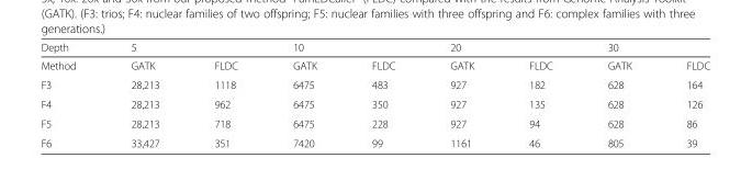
<table><thead><tr><td rowspan="2">Depth Method</td><td colspan="2">5</td><td colspan="2">10</td><td colspan="2">20</td><td colspan="2">30</td></tr><tr><td>GATK</td><td>FLDC</td><td>GATK</td><td>FLDC</td><td>GATK</td><td>FLDC</td><td>GATK</td><td>FLDC</td></tr></thead><tbody><tr><td>F3</td><td>28,213</td><td>1118</td><td>6475</td><td>483</td><td>927</td><td>182</td><td>628</td><td>164</td></tr><tr><td>F4</td><td>28,213</td><td>962</td><td>6475</td><td>350</td><td>927</td><td>135</td><td>628</td><td>126</td></tr><tr><td>F5</td><td>28,213</td><td>718</td><td>6475</td><td>228</td><td>927</td><td>94</td><td>628</td><td>86</td></tr><tr><td>F6</td><td>33,427</td><td>351</td><td>7420</td><td>99</td><td>1161</td><td>46</td><td>805</td><td>39</td></tr></tbody></table>